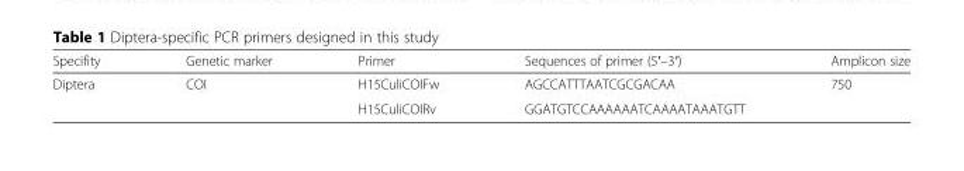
<table><thead><tr><td>Specifity</td><td>Genetic marker</td><td>Primer</td><td>Sequences of primer (5′–3′)</td><td>Amplicon size</td></tr></thead><tbody><tr><td rowspan="2">Diptera</td><td>COI</td><td>H15CuliCOIFw</td><td>AGCCATTTAATCGCGACAA</td><td>750</td></tr><tr><td></td><td>H15CuliCOIRv</td><td>GGATGTCCAAAAAATCAAAATAAATGTT</td><td></td></tr></tbody></table>